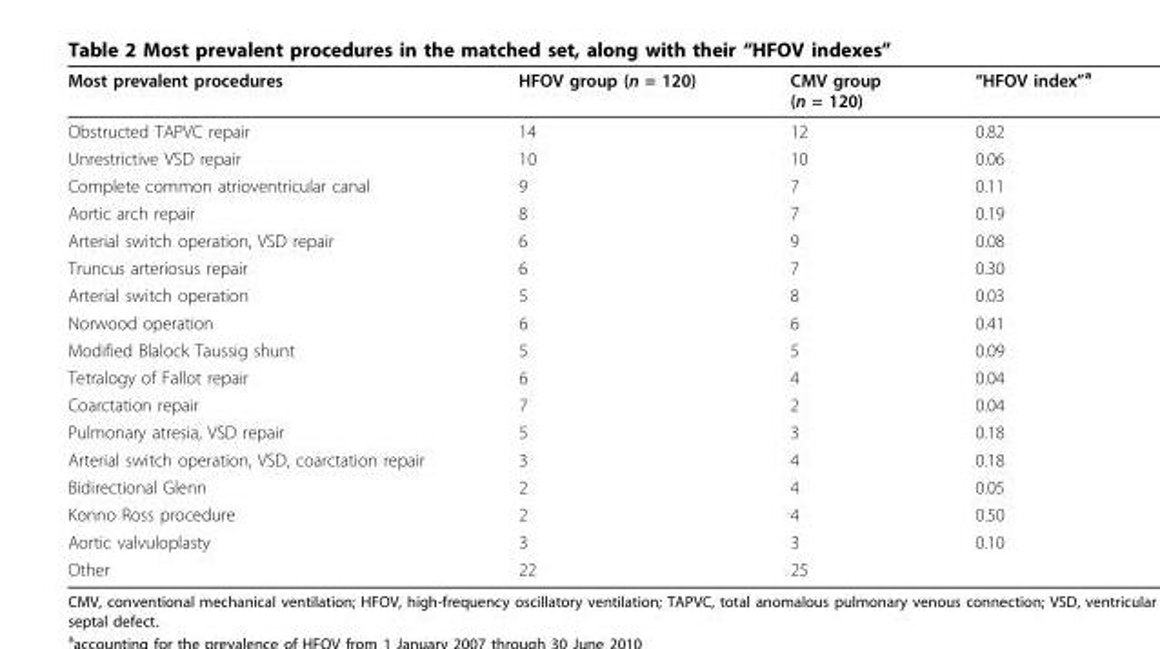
<table><thead><tr><td>Most prevalent procedures</td><td>HFOV group (n = 120)</td><td>CMV group (n = 120)</td><td>“HFOV index”a</td></tr></thead><tbody><tr><td>Obstructed TAPVC repair</td><td>14</td><td>12</td><td>0.82</td></tr><tr><td>Unrestrictive VSD repair</td><td>10</td><td>10</td><td>0.06</td></tr><tr><td>Complete common atrioventricular canal</td><td>9</td><td>7</td><td>0.11</td></tr><tr><td>Aortic arch repair</td><td>8</td><td>7</td><td>0.19</td></tr><tr><td>Arterial switch operation, VSD repair</td><td>6</td><td>9</td><td>0.08</td></tr><tr><td>Truncus arteriosus repair</td><td>6</td><td>7</td><td>0.30</td></tr><tr><td>Arterial switch operation</td><td>5</td><td>8</td><td>0.03</td></tr><tr><td>Norwood operation</td><td>6</td><td>6</td><td>0.41</td></tr><tr><td>Modified Blalock Taussig shunt</td><td>5</td><td>5</td><td>0.09</td></tr><tr><td>Tetralogy of Fallot repair</td><td>6</td><td>4</td><td>0.04</td></tr><tr><td>Coarctation repair</td><td>7</td><td>2</td><td>0.04</td></tr><tr><td>Pulmonary atresia, VSD repair</td><td>5</td><td>3</td><td>0.18</td></tr><tr><td>Arterial switch operation, VSD, coarctation repair</td><td>3</td><td>4</td><td>0.18</td></tr><tr><td>Bidirectional Glenn</td><td>2</td><td>4</td><td>0.05</td></tr><tr><td>Konno Ross procedure</td><td>2</td><td>4</td><td>0.50</td></tr><tr><td>Aortic valvuloplasty</td><td>3</td><td>3</td><td>0.10</td></tr><tr><td>Other</td><td>22</td><td>25</td><td></td></tr></tbody></table>